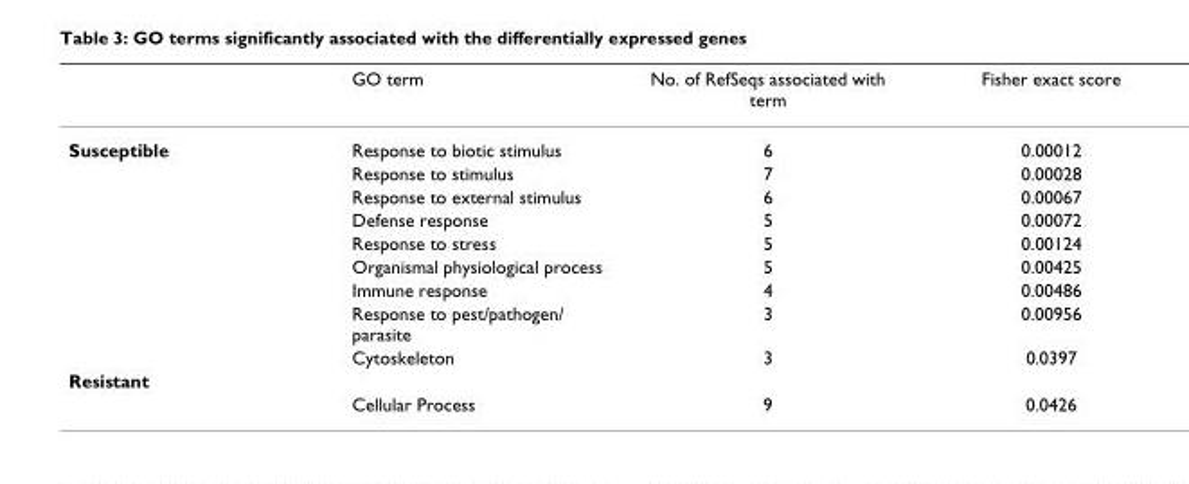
<table><thead><tr><td></td><td>GO term</td><td>No. of RefSeqs associated with term</td><td>Fisher exact score</td></tr></thead><tbody><tr><td rowspan="9">Susceptible</td><td>Response to biotic stimulus</td><td>6</td><td>0.00012</td></tr><tr><td>Response to stimulus</td><td>7</td><td>0.00028</td></tr><tr><td>Response to external stimulus</td><td>6</td><td>0.00067</td></tr><tr><td>Defense response</td><td>5</td><td>0.00072</td></tr><tr><td>Response to stress</td><td>5</td><td>0.00124</td></tr><tr><td>Organismal physiological process</td><td>5</td><td>0.00425</td></tr><tr><td>Immune response</td><td>4</td><td>0.00486</td></tr><tr><td>Response to pest/pathogen/ parasite</td><td>3</td><td>0.00956</td></tr><tr><td>Cytoskeleton</td><td>3</td><td>0.0397</td></tr><tr><td colspan="4">Resistant</td></tr><tr><td></td><td>Cellular Process</td><td>9</td><td>0.0426</td></tr></tbody></table>